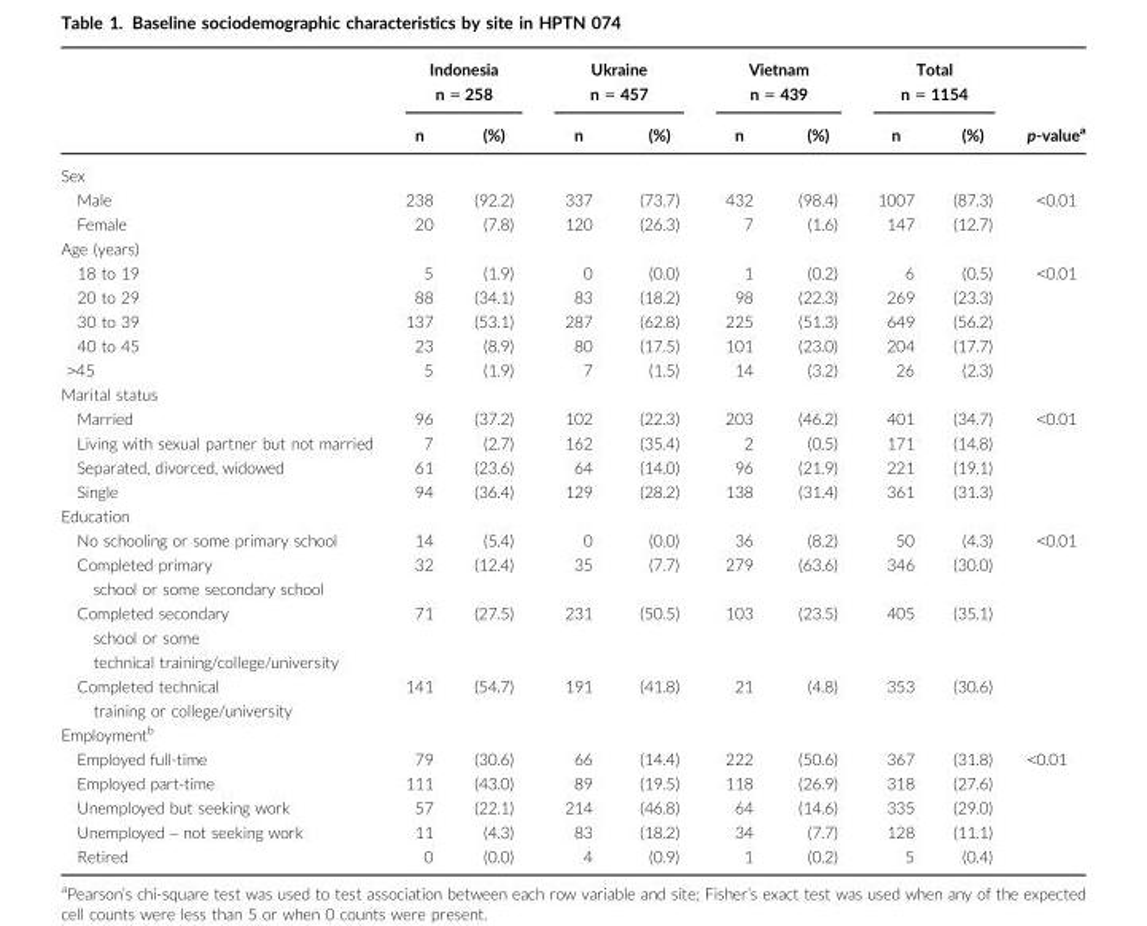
<table><thead><tr><td rowspan="2"></td><td colspan="2">Indonesia n = 258</td><td colspan="2">Ukraine n = 457</td><td colspan="2">Vietnam n = 439</td><td colspan="2">Total n = 1154</td><td rowspan="2">p-value<sup>a</sup></td></tr><tr><td>n</td><td>(%)</td><td>n</td><td>(%)</td><td>n</td><td>(%)</td><td>n</td><td>(%)</td></tr></thead><tbody><tr><td colspan="10">Sex</td></tr><tr><td>Male</td><td>238</td><td>(92.2)</td><td>337</td><td>(73.7)</td><td>432</td><td>(98.4)</td><td>1007</td><td>(87.3)</td><td rowspan="2">&lt;0.01</td></tr><tr><td>Female</td><td>20</td><td>(7.8)</td><td>120</td><td>(26.3)</td><td>7</td><td>(1.6)</td><td>147</td><td>(12.7)</td></tr><tr><td colspan="10">Age (years)</td></tr><tr><td>18 to 19</td><td>5</td><td>(1.9)</td><td>0</td><td>(0.0)</td><td>1</td><td>(0.2)</td><td>6</td><td>(0.5)</td><td rowspan="5">&lt;0.01</td></tr><tr><td>20 to 29</td><td>88</td><td>(34.1)</td><td>83</td><td>(18.2)</td><td>98</td><td>(22.3)</td><td>269</td><td>(23.3)</td></tr><tr><td>30 to 39</td><td>137</td><td>(53.1)</td><td>287</td><td>(62.8)</td><td>225</td><td>(51.3)</td><td>649</td><td>(56.2)</td></tr><tr><td>40 to 45</td><td>23</td><td>(8.9)</td><td>80</td><td>(17.5)</td><td>101</td><td>(23.0)</td><td>204</td><td>(17.7)</td></tr><tr><td>&gt;45</td><td>5</td><td>(1.9)</td><td>7</td><td>(1.5)</td><td>14</td><td>(3.2)</td><td>26</td><td>(2.3)</td></tr><tr><td colspan="10">Marital status</td></tr><tr><td>Married</td><td>96</td><td>(37.2)</td><td>102</td><td>(22.3)</td><td>203</td><td>(46.2)</td><td>401</td><td>(34.7)</td><td rowspan="4">&lt;0.01</td></tr><tr><td>Living with sexual partner but not married</td><td>7</td><td>(2.7)</td><td>162</td><td>(35.4)</td><td>2</td><td>(0.5)</td><td>171</td><td>(14.8)</td></tr><tr><td>Separated, divorced, widowed</td><td>61</td><td>(23.6)</td><td>64</td><td>(14.0)</td><td>96</td><td>(21.9)</td><td>221</td><td>(19.1)</td></tr><tr><td>Single</td><td>94</td><td>(36.4)</td><td>129</td><td>(28.2)</td><td>138</td><td>(31.4)</td><td>361</td><td>(31.3)</td></tr><tr><td colspan="10">Education</td></tr><tr><td>No schooling or some primary school</td><td>14</td><td>(5.4)</td><td>0</td><td>(0.0)</td><td>36</td><td>(8.2)</td><td>50</td><td>(4.3)</td><td rowspan="4">&lt;0.01</td></tr><tr><td>Completed primary school or some secondary school</td><td>32</td><td>(12.4)</td><td>35</td><td>(7.7)</td><td>279</td><td>(63.6)</td><td>346</td><td>(30.0)</td></tr><tr><td>Completed secondary school or some technical training/college/university</td><td>71</td><td>(27.5)</td><td>231</td><td>(50.5)</td><td>103</td><td>(23.5)</td><td>405</td><td>(35.1)</td></tr><tr><td>Completed technical training or college/university</td><td>141</td><td>(54.7)</td><td>191</td><td>(41.8)</td><td>21</td><td>(4.8)</td><td>353</td><td>(30.6)</td></tr><tr><td colspan="10">Employment<sup>b</sup></td></tr><tr><td>Employed full-time</td><td>79</td><td>(30.6)</td><td>66</td><td>(14.4)</td><td>222</td><td>(50.6)</td><td>367</td><td>(31.8)</td><td rowspan="5">&lt;0.01</td></tr><tr><td>Employed part-time</td><td>111</td><td>(43.0)</td><td>89</td><td>(19.5)</td><td>118</td><td>(26.9)</td><td>318</td><td>(27.6)</td></tr><tr><td>Unemployed but seeking work</td><td>57</td><td>(22.1)</td><td>214</td><td>(46.8)</td><td>64</td><td>(14.6)</td><td>335</td><td>(29.0)</td></tr><tr><td>Unemployed – not seeking work</td><td>11</td><td>(4.3)</td><td>83</td><td>(18.2)</td><td>34</td><td>(7.7)</td><td>128</td><td>(11.1)</td></tr><tr><td>Retired</td><td>0</td><td>(0.0)</td><td>4</td><td>(0.9)</td><td>1</td><td>(0.2)</td><td>5</td><td>(0.4)</td></tr></tbody></table>